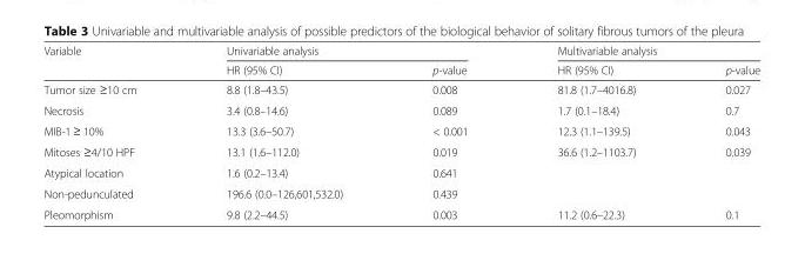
<table><thead><tr><td rowspan="2">Variable</td><td colspan="2">Univariable analysis</td><td colspan="2">Multivariable analysis</td></tr><tr><td>HR (95% CI)</td><td>p-value</td><td>HR (95% CI)</td><td>p-value</td></tr></thead><tbody><tr><td>Tumor size ≥10 cm</td><td>8.8 (1.8–43.5)</td><td>0.008</td><td>81.8 (1.7–4016.8)</td><td>0.027</td></tr><tr><td>Necrosis</td><td>3.4 (0.8–14.6)</td><td>0.089</td><td>1.7 (0.1–18.4)</td><td>0.7</td></tr><tr><td>MIB-1 ≥ 10%</td><td>13.3 (3.6–50.7)</td><td>&lt; 0.001</td><td>12.3 (1.1–139.5)</td><td>0.043</td></tr><tr><td>Mitoses ≥4/10 HPF</td><td>13.1 (1.6–112.0)</td><td>0.019</td><td>36.6 (1.2–1103.7)</td><td>0.039</td></tr><tr><td>Atypical location</td><td>1.6 (0.2–13.4)</td><td>0.641</td><td></td><td></td></tr><tr><td>Non-pedunculated</td><td>196.6 (0.0–126,601,532.0)</td><td>0.439</td><td></td><td></td></tr><tr><td>Pleomorphism</td><td>9.8 (2.2–44.5)</td><td>0.003</td><td>11.2 (0.6–22.3)</td><td>0.1</td></tr></tbody></table>